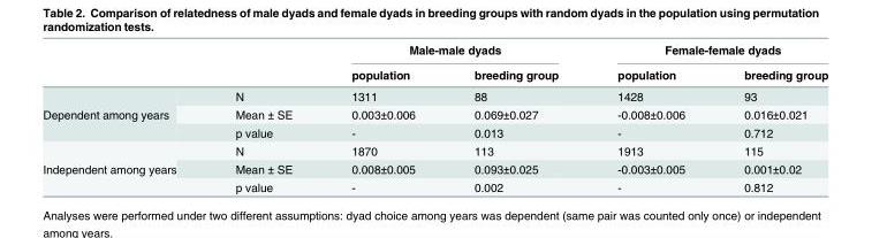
<table><thead><tr><td rowspan="2"></td><td rowspan="2"></td><td colspan="2">Male-male dyads</td><td colspan="2">Female-female dyads</td></tr><tr><td>population</td><td>breeding group</td><td>population</td><td>breeding group</td></tr></thead><tbody><tr><td rowspan="3">Dependent among years</td><td>N</td><td>1311</td><td>88</td><td>1428</td><td>93</td></tr><tr><td>Mean ± SE</td><td>0.003±0.006</td><td>0.069±0.027</td><td>-0.008±0.006</td><td>0.016±0.021</td></tr><tr><td>p value</td><td>-</td><td>0.013</td><td>-</td><td>0.712</td></tr><tr><td rowspan="3">Independent among years</td><td>N</td><td>1870</td><td>113</td><td>1913</td><td>115</td></tr><tr><td>Mean ± SE</td><td>0.008±0.005</td><td>0.093±0.025</td><td>-0.003±0.005</td><td>0.001±0.02</td></tr><tr><td>p value</td><td>-</td><td>0.002</td><td>-</td><td>0.812</td></tr></tbody></table>